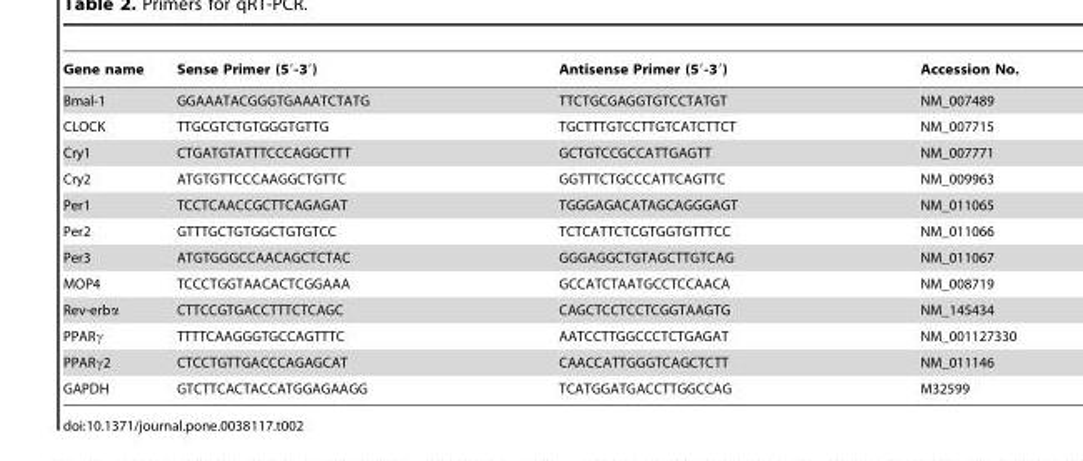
<table><thead><tr><td>Gene name</td><td>Sense Primer (5′-3′)</td><td>Antisense Primer (5′-3′)</td><td>Accession No.</td></tr></thead><tbody><tr><td>Bmal-1</td><td>GGAAATACGGGTGAAATCTATG</td><td>TTCTGCGAGGTGTCCTATGT</td><td>NM_007489</td></tr><tr><td>CLOCK</td><td>TTGCGTCTGTGGGTGTTG</td><td>TGCTTTGTCCTTGTCATCTTCT</td><td>NM_007715</td></tr><tr><td>Cry1</td><td>CTGATGTATTTCCCAGGCTTT</td><td>GCTGTCCGCCATTGAGTT</td><td>NM_007771</td></tr><tr><td>Cry2</td><td>ATGTGTTCCCAAGGCTGTTC</td><td>GGTTTCTGCCCATTCAGTTC</td><td>NM_009963</td></tr><tr><td>Per1</td><td>TCCTCAACCGCTTCAGAGAT</td><td>TGGGAGACATAGCAGGGAGT</td><td>NM_011065</td></tr><tr><td>Per2</td><td>GTTTGCTGTGGCTGTGTCC</td><td>TCTCATTCTCGTGGTGTTTCC</td><td>NM_011066</td></tr><tr><td>Per3</td><td>ATGTGGGCCAACAGCTCTAC</td><td>GGGAGGCTGTAGCTTGTCAG</td><td>NM_011067</td></tr><tr><td>MOP4</td><td>TCCCTGGTAACACTCGGAAA</td><td>GCCATCTAATGCCTCCAACA</td><td>NM_008719</td></tr><tr><td>Rev-erbα</td><td>CTTCCGTGACCTTTCTCAGC</td><td>CAGCTCCTCCTCGGTAAGTG</td><td>NM_145434</td></tr><tr><td>PPARγ</td><td>TTTTCAAGGGTGCCAGTTTC</td><td>AATCCTTGGCCCTCTGAGAT</td><td>NM_001127330</td></tr><tr><td>PPARγ2</td><td>CTCCTGTTGACCCAGAGCAT</td><td>CAACCATTGGGTCAGCTCTT</td><td>NM_011146</td></tr><tr><td>GAPDH</td><td>GTCTTCACTACCATGGAGAAGG</td><td>TCATGGATGACCTTGGCCAG</td><td>M32599</td></tr></tbody></table>